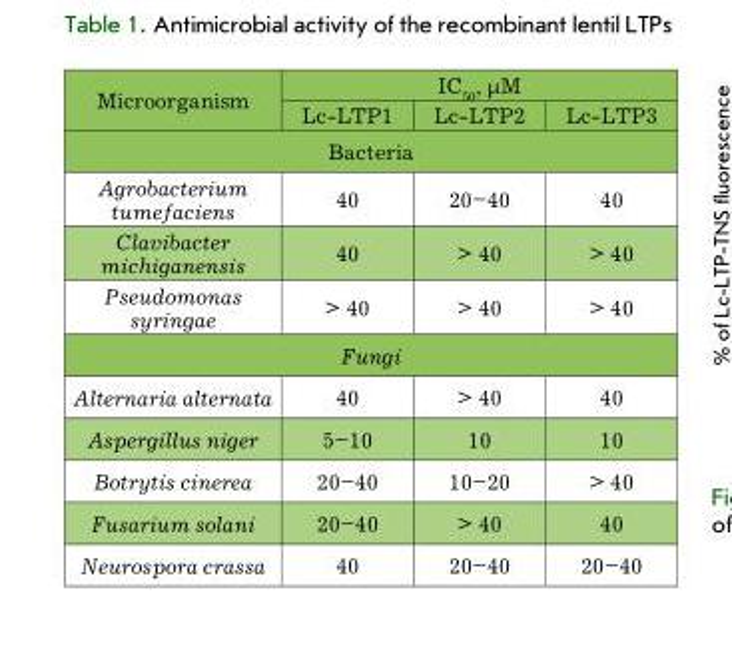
<table><thead><tr><td rowspan="2">Microorganism</td><td colspan="3">IC<sub>50</sub>, µM</td></tr><tr><td>Lc-LTP1</td><td>Lc-LTP2</td><td>Lc-LTP3</td></tr></thead><tbody><tr><td colspan="4">Bacteria</td></tr><tr><td>Agrobacterium tumefaciens</td><td>40</td><td>20–40</td><td>40</td></tr><tr><td>Clavibacter michiganensis</td><td>40</td><td>&gt; 40</td><td>&gt; 40</td></tr><tr><td>Pseudomonas syringae</td><td>&gt; 40</td><td>&gt; 40</td><td>&gt; 40</td></tr><tr><td colspan="4">Fungi</td></tr><tr><td>Alternaria alternata</td><td>40</td><td>&gt; 40</td><td>40</td></tr><tr><td>Aspergillus niger</td><td>5–10</td><td>10</td><td>10</td></tr><tr><td>Botrytis cinerea</td><td>20–40</td><td>10–20</td><td>&gt; 40</td></tr><tr><td>Fusarium solani</td><td>20–40</td><td>&gt; 40</td><td>40</td></tr><tr><td>Neurospora crassa</td><td>40</td><td>20–40</td><td>20–40</td></tr></tbody></table>